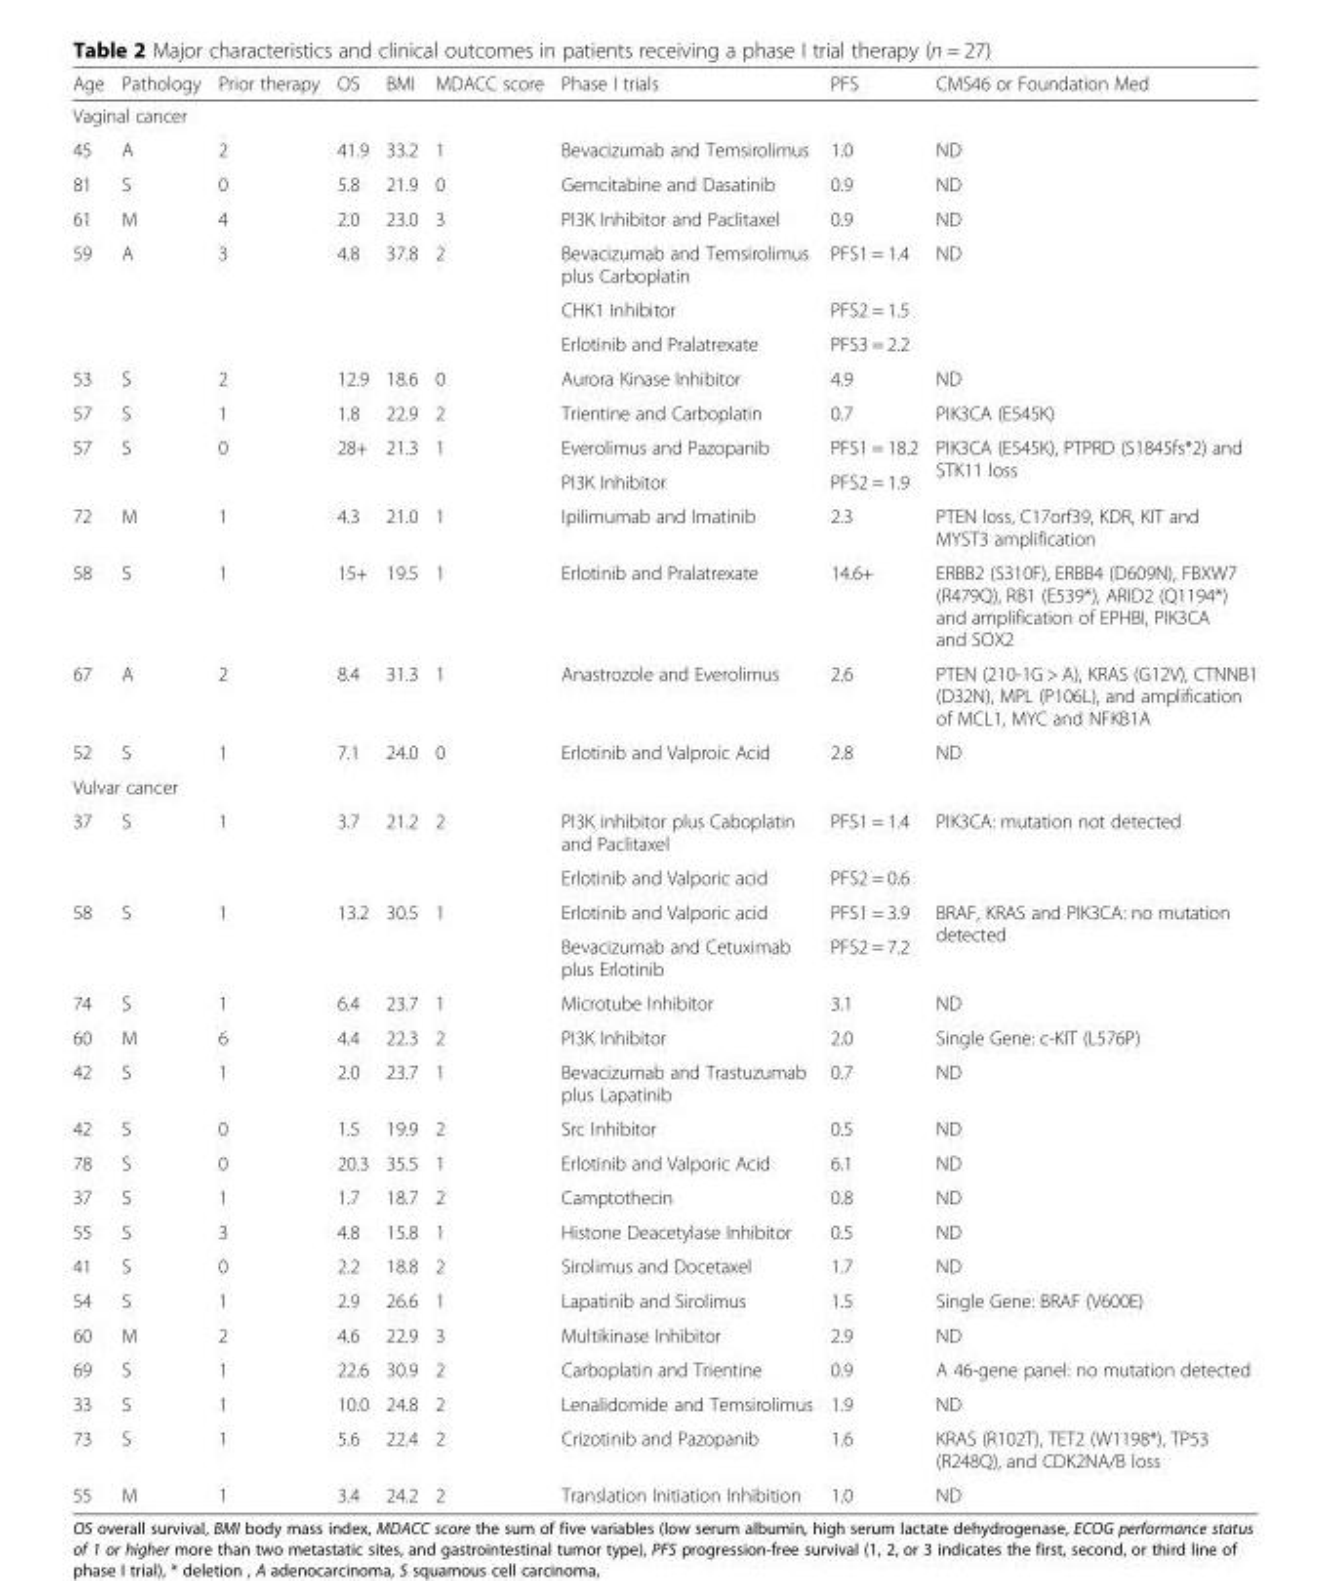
<table><thead><tr><td>Age</td><td>Pathology</td><td>Prior therapy</td><td>OS</td><td>BMI</td><td>MDACC score</td><td>Phase I trials</td><td>PFS</td><td>CMS46 or Foundation Med</td></tr></thead><tbody><tr><td colspan="9">Vaginal cancer</td></tr><tr><td>45</td><td>A</td><td>2</td><td>41.9</td><td>33.2</td><td>1</td><td>Bevacizumab and Temsirolimus</td><td>1.0</td><td>ND</td></tr><tr><td>81</td><td>S</td><td>0</td><td>5.8</td><td>21.9</td><td>0</td><td>Gemcitabine and Dasatinib</td><td>0.9</td><td>ND</td></tr><tr><td>61</td><td>M</td><td>4</td><td>2.0</td><td>23.0</td><td>3</td><td>PI3K Inhibitor and Paclitaxel</td><td>0.9</td><td>ND</td></tr><tr><td rowspan="3">59</td><td rowspan="3">A</td><td rowspan="3">3</td><td rowspan="3">4.8</td><td rowspan="3">37.8</td><td rowspan="3">2</td><td>Bevacizumab and Temsirolimus plus Carboplatin</td><td>PFS1 = 1.4</td><td rowspan="3">ND</td></tr><tr><td>CHK1 Inhibitor</td><td>PFS2 = 1.5</td></tr><tr><td>Erlotinib and Pralatrexate</td><td>PFS3 = 2.2</td></tr><tr><td>53</td><td>S</td><td>2</td><td>12.9</td><td>18.6</td><td>0</td><td>Aurora Kinase Inhibitor</td><td>4.9</td><td>ND</td></tr><tr><td>57</td><td>S</td><td>1</td><td>1.8</td><td>22.9</td><td>2</td><td>Trientine and Carboplatin</td><td>0.7</td><td>PIK3CA (E545K)</td></tr><tr><td rowspan="2">57</td><td rowspan="2">S</td><td rowspan="2">0</td><td rowspan="2">28+</td><td rowspan="2">21.3</td><td rowspan="2">1</td><td>Everolimus and Pazopanib</td><td>PFS1 = 18.2</td><td rowspan="2">PIK3CA (E545K), PTPRD (S1845fs*2) and STK11 loss</td></tr><tr><td>PI3K Inhibitor</td><td>PFS2 = 1.9</td></tr><tr><td>72</td><td>M</td><td>1</td><td>4.3</td><td>21.0</td><td>1</td><td>Ipilimumab and Imatinib</td><td>2.3</td><td>PTEN loss, C17orf39, KDR, KIT and MYST3 amplification</td></tr><tr><td>58</td><td>S</td><td>1</td><td>15+</td><td>19.5</td><td>1</td><td>Erlotinib and Pralatrexate</td><td>14.6+</td><td>ERBB2 (S310F), ERBB4 (D609N), FBXW7 (R479Q), RB1 (E539*), ARID2 (Q1194*) and amplification of EPHBI, PIK3CA and SOX2</td></tr><tr><td>67</td><td>A</td><td>2</td><td>8.4</td><td>31.3</td><td>1</td><td>Anastrozole and Everolimus</td><td>2.6</td><td>PTEN (210-1G &gt; A), KRAS (G12V), CTNNB1 (D32N), MPL (P106L), and amplification of MCL1, MYC and NFKB1A</td></tr><tr><td>52</td><td>S</td><td>1</td><td>7.1</td><td>24.0</td><td>0</td><td>Erlotinib and Valproic Acid</td><td>2.8</td><td>ND</td></tr><tr><td colspan="9">Vulvar cancer</td></tr><tr><td rowspan="2">37</td><td rowspan="2">S</td><td rowspan="2">1</td><td rowspan="2">3.7</td><td rowspan="2">21.2</td><td rowspan="2">2</td><td>PI3K inhibitor plus Caboplatin and Paclitaxel</td><td>PFS1 = 1.4</td><td rowspan="2">PIK3CA: mutation not detected</td></tr><tr><td>Erlotinib and Valporic acid</td><td>PFS2 = 0.6</td></tr><tr><td rowspan="2">58</td><td rowspan="2">S</td><td rowspan="2">1</td><td rowspan="2">13.2</td><td rowspan="2">30.5</td><td rowspan="2">1</td><td>Erlotinib and Valporic acid</td><td>PFS1 = 3.9</td><td rowspan="2">BRAF, KRAS and PIK3CA: no mutation detected</td></tr><tr><td>Bevacizumab and Cetuximab plus Erlotinib</td><td>PFS2 = 7.2</td></tr><tr><td>74</td><td>S</td><td>1</td><td>6.4</td><td>23.7</td><td>1</td><td>Microtube Inhibitor</td><td>3.1</td><td>ND</td></tr><tr><td>60</td><td>M</td><td>6</td><td>4.4</td><td>22.3</td><td>2</td><td>PI3K Inhibitor</td><td>2.0</td><td>Single Gene: c-KIT (L576P)</td></tr><tr><td>42</td><td>S</td><td>1</td><td>2.0</td><td>23.7</td><td>1</td><td>Bevacizumab and Trastuzumab plus Lapatinib</td><td>0.7</td><td>ND</td></tr><tr><td>42</td><td>S</td><td>0</td><td>1.5</td><td>19.9</td><td>2</td><td>Src Inhibitor</td><td>0.5</td><td>ND</td></tr><tr><td>78</td><td>S</td><td>0</td><td>20.3</td><td>35.5</td><td>1</td><td>Erlotinib and Valporic Acid</td><td>6.1</td><td>ND</td></tr><tr><td>37</td><td>S</td><td>1</td><td>1.7</td><td>18.7</td><td>2</td><td>Camptothecin</td><td>0.8</td><td>ND</td></tr><tr><td>55</td><td>S</td><td>3</td><td>4.8</td><td>15.8</td><td>1</td><td>Histone Deacetylase Inhibitor</td><td>0.5</td><td>ND</td></tr><tr><td>41</td><td>S</td><td>0</td><td>2.2</td><td>18.8</td><td>2</td><td>Sirolimus and Docetaxel</td><td>1.7</td><td>ND</td></tr><tr><td>54</td><td>S</td><td>1</td><td>2.9</td><td>26.6</td><td>1</td><td>Lapatinib and Sirolimus</td><td>1.5</td><td>Single Gene: BRAF (V600E)</td></tr><tr><td>60</td><td>M</td><td>2</td><td>4.6</td><td>22.9</td><td>3</td><td>Multikinase Inhibitor</td><td>2.9</td><td>ND</td></tr><tr><td>69</td><td>S</td><td>1</td><td>22.6</td><td>30.9</td><td>2</td><td>Carboplatin and Trientine</td><td>0.9</td><td>A 46-gene panel: no mutation detected</td></tr><tr><td>33</td><td>S</td><td>1</td><td>10.0</td><td>24.8</td><td>2</td><td>Lenalidomide and Temsirolimus</td><td>1.9</td><td>ND</td></tr><tr><td>73</td><td>S</td><td>1</td><td>5.6</td><td>22.4</td><td>2</td><td>Crizotinib and Pazopanib</td><td>1.6</td><td>KRAS (R102T), TET2 (W1198*), TP53 (R248Q), and CDK2NA/B loss</td></tr><tr><td>55</td><td>M</td><td>1</td><td>3.4</td><td>24.2</td><td>2</td><td>Translation Initiation Inhibition</td><td>1.0</td><td>ND</td></tr></tbody></table>